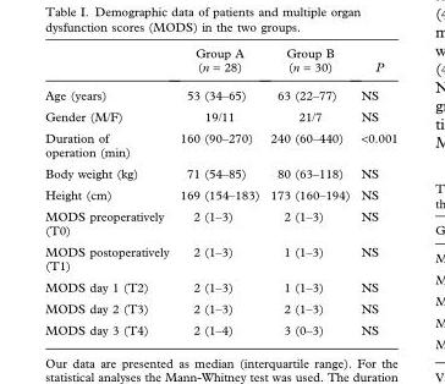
<table><thead><tr><td></td><td>Group A (n = 28)</td><td>Group B (n = 30)</td><td>P</td></tr></thead><tbody><tr><td>Age (years)</td><td>53 (34–65)</td><td>63 (22–77)</td><td>NS</td></tr><tr><td>Gender (M/F)</td><td>19/11</td><td>21/7</td><td>NS</td></tr><tr><td>Duration of operation (min)</td><td>160 (90–270)</td><td>240 (60–440)</td><td>&lt;0.001</td></tr><tr><td>Body weight (kg)</td><td>71 (54–85)</td><td>80 (63–118)</td><td>NS</td></tr><tr><td>Height (cm)</td><td>169 (154–183)</td><td>173 (160–194)</td><td>NS</td></tr><tr><td>MODS preoperatively (T0)</td><td>2 (1–3)</td><td>2 (1–3)</td><td>NS</td></tr><tr><td>MODS postoperatively (T1)</td><td>2 (1–3)</td><td>1 (1–3)</td><td>NS</td></tr><tr><td>MODS day 1 (T2)</td><td>2 (1–3)</td><td>1 (1–3)</td><td>NS</td></tr><tr><td>MODS day 2 (T3)</td><td>2 (1–3)</td><td>2 (1–3)</td><td>NS</td></tr><tr><td>MODS day 3 (T4)</td><td>2 (1–4)</td><td>3 (0–3)</td><td>NS</td></tr></tbody></table>